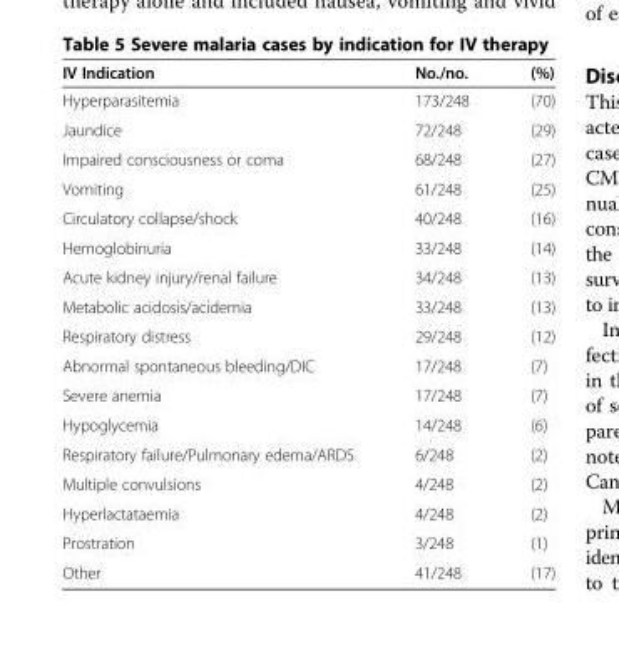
<table><thead><tr><td>IV Indication</td><td>No./no.</td><td>(%)</td></tr></thead><tbody><tr><td>Hyperparasitemia</td><td>173/248</td><td>(70)</td></tr><tr><td>Jaundice</td><td>72/248</td><td>(29)</td></tr><tr><td>Impaired consciousness or coma</td><td>68/248</td><td>(27)</td></tr><tr><td>Vomiting</td><td>61/248</td><td>(25)</td></tr><tr><td>Circulatory collapse/shock</td><td>40/248</td><td>(16)</td></tr><tr><td>Hemoglobinuria</td><td>33/248</td><td>(14)</td></tr><tr><td>Acute kidney injury/renal failure</td><td>34/248</td><td>(13)</td></tr><tr><td>Metabolic acidosis/acidemia</td><td>33/248</td><td>(13)</td></tr><tr><td>Respiratory distress</td><td>29/248</td><td>(12)</td></tr><tr><td>Abnormal spontaneous bleeding/DIC</td><td>17/248</td><td>(7)</td></tr><tr><td>Severe anemia</td><td>17/248</td><td>(7)</td></tr><tr><td>Hypoglycemia</td><td>14/248</td><td>(6)</td></tr><tr><td>Respiratory failure/Pulmonary edema/ARDS</td><td>6/248</td><td>(2)</td></tr><tr><td>Multiple convulsions</td><td>4/248</td><td>(2)</td></tr><tr><td>Hyperlactataemia</td><td>4/248</td><td>(2)</td></tr><tr><td>Prostration</td><td>3/248</td><td>(1)</td></tr><tr><td>Other</td><td>41/248</td><td>(17)</td></tr></tbody></table>